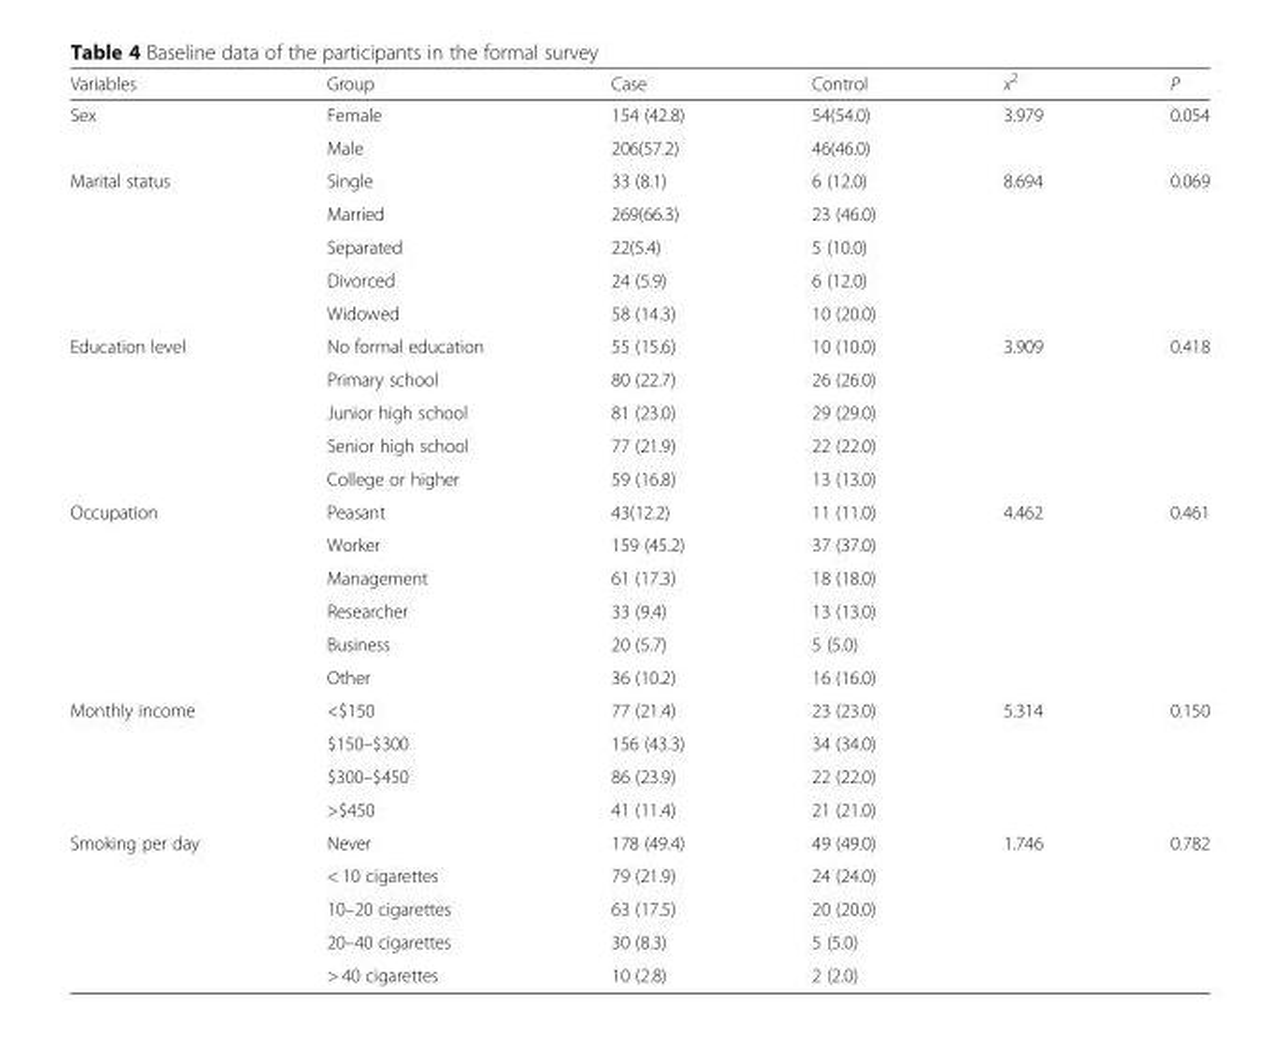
<table><thead><tr><td>Variables</td><td>Group</td><td>Case</td><td>Control</td><td>x<sup>2</sup></td><td>P</td></tr></thead><tbody><tr><td rowspan="2">Sex</td><td>Female</td><td>154 (42.8)</td><td>54(54.0)</td><td>3.979</td><td>0.054</td></tr><tr><td>Male</td><td>206(57.2)</td><td>46(46.0)</td><td></td><td></td></tr><tr><td rowspan="5">Marital status</td><td>Single</td><td>33 (8.1)</td><td>6 (12.0)</td><td>8.694</td><td>0.069</td></tr><tr><td>Married</td><td>269(66.3)</td><td>23 (46.0)</td><td></td><td></td></tr><tr><td>Separated</td><td>22(5.4)</td><td>5 (10.0)</td><td></td><td></td></tr><tr><td>Divorced</td><td>24 (5.9)</td><td>6 (12.0)</td><td></td><td></td></tr><tr><td>Widowed</td><td>58 (14.3)</td><td>10 (20.0)</td><td></td><td></td></tr><tr><td rowspan="5">Education level</td><td>No formal education</td><td>55 (15.6)</td><td>10 (10.0)</td><td>3.909</td><td>0.418</td></tr><tr><td>Primary school</td><td>80 (22.7)</td><td>26 (26.0)</td><td></td><td></td></tr><tr><td>Junior high school</td><td>81 (23.0)</td><td>29 (29.0)</td><td></td><td></td></tr><tr><td>Senior high school</td><td>77 (21.9)</td><td>22 (22.0)</td><td></td><td></td></tr><tr><td>College or higher</td><td>59 (16.8)</td><td>13 (13.0)</td><td></td><td></td></tr><tr><td rowspan="6">Occupation</td><td>Peasant</td><td>43(12.2)</td><td>11 (11.0)</td><td>4.462</td><td>0.461</td></tr><tr><td>Worker</td><td>159 (45.2)</td><td>37 (37.0)</td><td></td><td></td></tr><tr><td>Management</td><td>61 (17.3)</td><td>18 (18.0)</td><td></td><td></td></tr><tr><td>Researcher</td><td>33 (9.4)</td><td>13 (13.0)</td><td></td><td></td></tr><tr><td>Business</td><td>20 (5.7)</td><td>5 (5.0)</td><td></td><td></td></tr><tr><td>Other</td><td>36 (10.2)</td><td>16 (16.0)</td><td></td><td></td></tr><tr><td rowspan="4">Monthly income</td><td>&lt;$150</td><td>77 (21.4)</td><td>23 (23.0)</td><td>5.314</td><td>0.150</td></tr><tr><td>$150–$300</td><td>156 (43.3)</td><td>34 (34.0)</td><td></td><td></td></tr><tr><td>$300–$450</td><td>86 (23.9)</td><td>22 (22.0)</td><td></td><td></td></tr><tr><td>&gt;$450</td><td>41 (11.4)</td><td>21 (21.0)</td><td></td><td></td></tr><tr><td rowspan="5">Smoking per day</td><td>Never</td><td>178 (49.4)</td><td>49 (49.0)</td><td>1.746</td><td>0.782</td></tr><tr><td>&lt; 10 cigarettes</td><td>79 (21.9)</td><td>24 (24.0)</td><td></td><td></td></tr><tr><td>10–20 cigarettes</td><td>63 (17.5)</td><td>20 (20.0)</td><td></td><td></td></tr><tr><td>20–40 cigarettes</td><td>30 (8.3)</td><td>5 (5.0)</td><td></td><td></td></tr><tr><td>&gt; 40 cigarettes</td><td>10 (2.8)</td><td>2 (2.0)</td><td></td><td></td></tr></tbody></table>